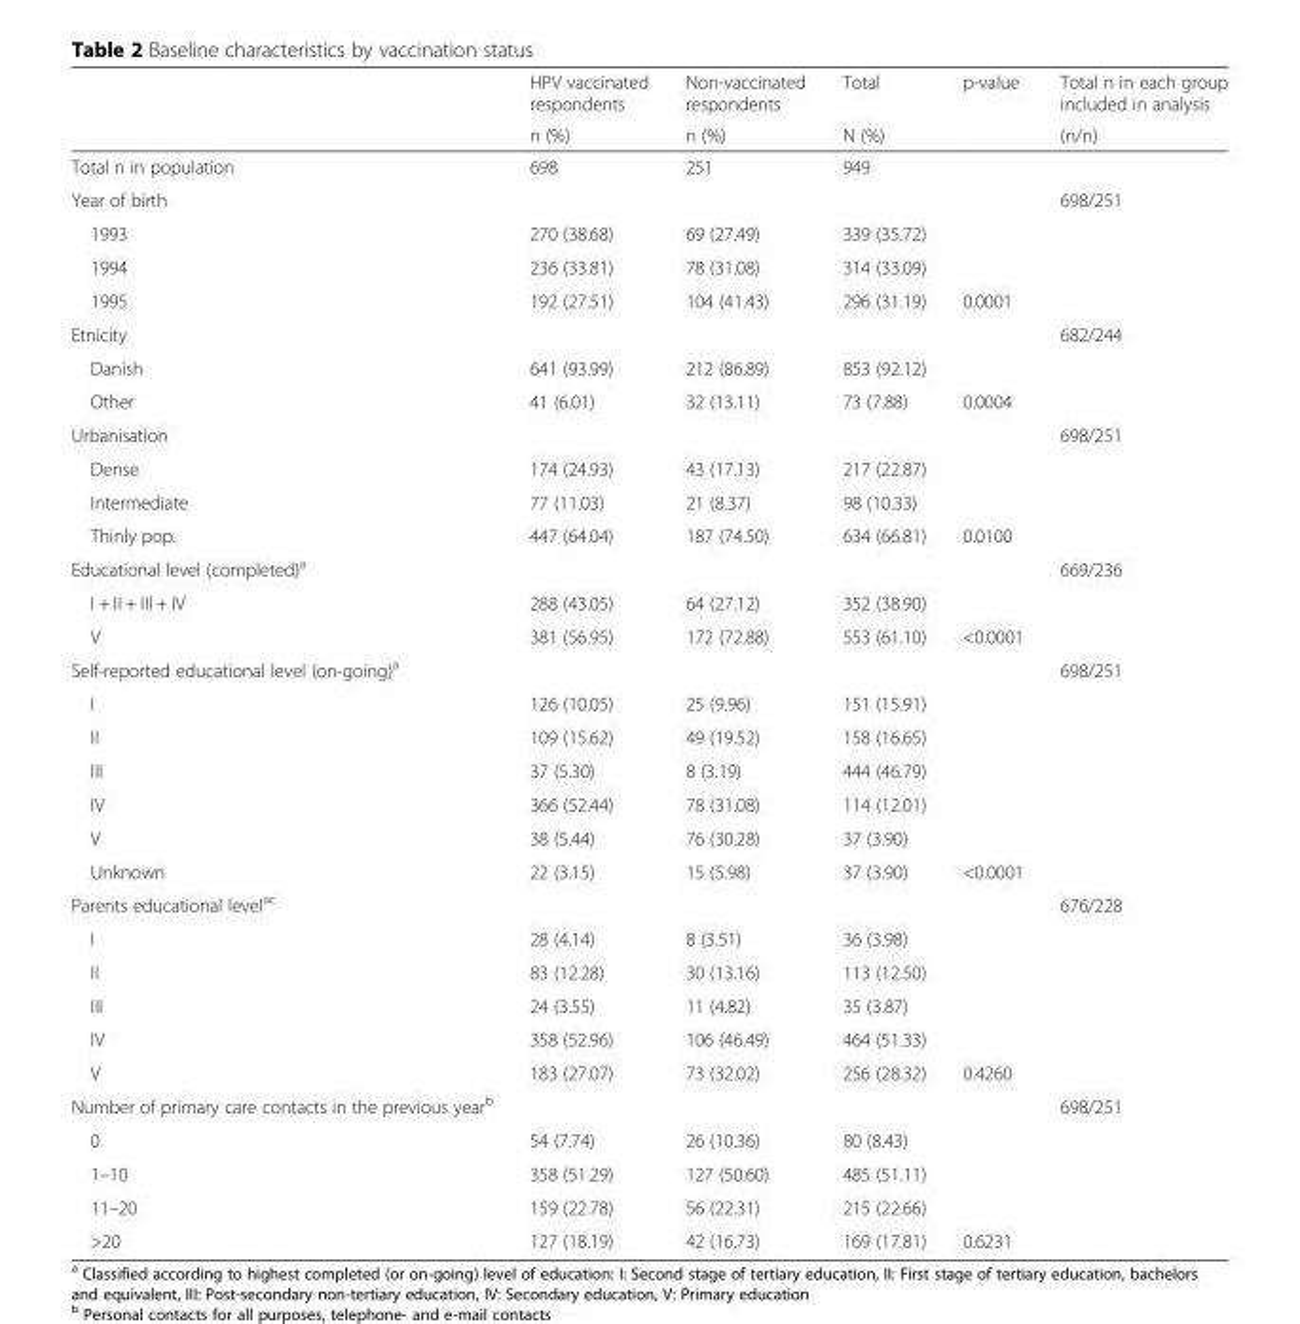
<table><thead><tr><td rowspan="2"></td><td rowspan="2">HPV vaccinated respondents n (%)</td><td rowspan="2">Non-vaccinated respondents n (%)</td><td rowspan="2">Total N (%)</td><td rowspan="2">p-value</td><td rowspan="2">Total n in each group included in analysis (n/n)</td></tr><tr></tr></thead><tbody><tr><td>Total n in population</td><td>698</td><td>251</td><td>949</td><td></td><td></td></tr><tr><td colspan="5">Year of birth</td><td rowspan="4">698/251</td></tr><tr><td>1993</td><td>270 (38.68)</td><td>69 (27.49)</td><td>339 (35.72)</td><td></td></tr><tr><td>1994</td><td>236 (33.81)</td><td>78 (31.08)</td><td>314 (33.09)</td><td></td></tr><tr><td>1995</td><td>192 (27.51)</td><td>104 (41.43)</td><td>296 (31.19)</td><td>0.0001</td></tr><tr><td colspan="5">Etnicity</td><td rowspan="3">682/244</td></tr><tr><td>Danish</td><td>641 (93.99)</td><td>212 (86.89)</td><td>853 (92.12)</td><td></td></tr><tr><td>Other</td><td>41 (6.01)</td><td>32 (13.11)</td><td>73 (7.88)</td><td>0.0004</td></tr><tr><td colspan="5">Urbanisation</td><td rowspan="4">698/251</td></tr><tr><td>Dense</td><td>174 (24.93)</td><td>43 (17.13)</td><td>217 (22.87)</td><td></td></tr><tr><td>Intermediate</td><td>77 (11.03)</td><td>21 (8.37)</td><td>98 (10.33)</td><td></td></tr><tr><td>Thinly pop.</td><td>447 (64.04)</td><td>187 (74.50)</td><td>634 (66.81)</td><td>0.0100</td></tr><tr><td colspan="5">Educational level (completed)<sup>a</sup></td><td rowspan="3">669/236</td></tr><tr><td>I + II + III + IV</td><td>288 (43.05)</td><td>64 (27.12)</td><td>352 (38.90)</td><td></td></tr><tr><td>V</td><td>381 (56.95)</td><td>172 (72.88)</td><td>553 (61.10)</td><td>&lt;0.0001</td></tr><tr><td colspan="5">Self-reported educational level (on-going)<sup>a</sup></td><td rowspan="7">698/251</td></tr><tr><td>I</td><td>126 (10.05)</td><td>25 (9.96)</td><td>151 (15.91)</td><td></td></tr><tr><td>II</td><td>109 (15.62)</td><td>49 (19.52)</td><td>158 (16.65)</td><td></td></tr><tr><td>III</td><td>37 (5.30)</td><td>8 (3.19)</td><td>444 (46.79)</td><td></td></tr><tr><td>IV</td><td>366 (52.44)</td><td>78 (31.08)</td><td>114 (12.01)</td><td></td></tr><tr><td>V</td><td>38 (5.44)</td><td>76 (30.28)</td><td>37 (3.90)</td><td></td></tr><tr><td>Unknown</td><td>22 (3.15)</td><td>15 (5.98)</td><td>37 (3.90)</td><td>&lt;0.0001</td></tr><tr><td colspan="5">Parents educational level<sup>ac</sup></td><td rowspan="6">676/228</td></tr><tr><td>I</td><td>28 (4.14)</td><td>8 (3.51)</td><td>36 (3.98)</td><td></td></tr><tr><td>II</td><td>83 (12.28)</td><td>30 (13.16)</td><td>113 (12.50)</td><td></td></tr><tr><td>III</td><td>24 (3.55)</td><td>11 (4.82)</td><td>35 (3.87)</td><td></td></tr><tr><td>IV</td><td>358 (52.96)</td><td>106 (46.49)</td><td>464 (51.33)</td><td></td></tr><tr><td>V</td><td>183 (27.07)</td><td>73 (32.02)</td><td>256 (28.32)</td><td>0.4260</td></tr><tr><td colspan="5">Number of primary care contacts in the previous year<sup>b</sup></td><td rowspan="5">698/251</td></tr><tr><td>0</td><td>54 (7.74)</td><td>26 (10.36)</td><td>80 (8.43)</td><td></td></tr><tr><td>1–10</td><td>358 (51.29)</td><td>127 (50.60)</td><td>485 (51.11)</td><td></td></tr><tr><td>11–20</td><td>159 (22.78)</td><td>56 (22.31)</td><td>215 (22.66)</td><td></td></tr><tr><td>&gt;20</td><td>127 (18.19)</td><td>42 (16.73)</td><td>169 (17.81)</td><td>0.6231</td></tr></tbody></table>